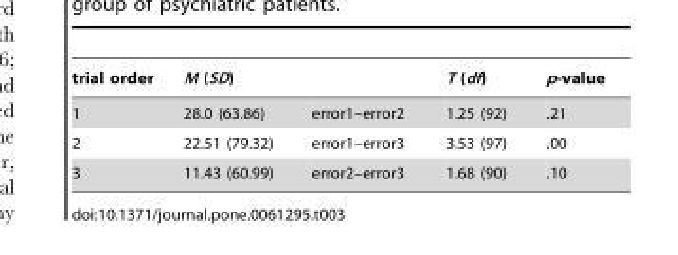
<table><thead><tr><td>trial order</td><td>M (SD)</td><td></td><td>T (df)</td><td>p-value</td></tr></thead><tbody><tr><td>1</td><td>28.0 (63.86)</td><td>error1–error2</td><td>1.25 (92)</td><td>.21</td></tr><tr><td>2</td><td>22.51 (79.32)</td><td>error1–error3</td><td>3.53 (97)</td><td>.00</td></tr><tr><td>3</td><td>11.43 (60.99)</td><td>error2–error3</td><td>1.68 (90)</td><td>.10</td></tr></tbody></table>